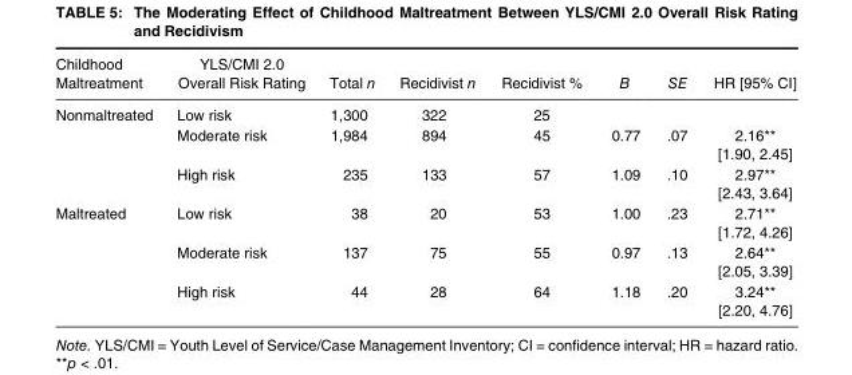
<table><thead><tr><td>Childhood Maltreatment</td><td>YLS/CMI 2.0 Overall Risk Rating</td><td>Total n</td><td>Recidivist n</td><td>Recidivist %</td><td>B</td><td>SE</td><td>HR [95% CI]</td></tr></thead><tbody><tr><td rowspan="3">Nonmaltreated</td><td>Low risk</td><td>1,300</td><td>322</td><td>25</td><td></td><td></td><td></td></tr><tr><td>Moderate risk</td><td>1,984</td><td>894</td><td>45</td><td>0.77</td><td>.07</td><td>2.16** [1.90, 2.45]</td></tr><tr><td>High risk</td><td>235</td><td>133</td><td>57</td><td>1.09</td><td>.10</td><td>2.97** [2.43, 3.64]</td></tr><tr><td rowspan="3">Maltreated</td><td>Low risk</td><td>38</td><td>20</td><td>53</td><td>1.00</td><td>.23</td><td>2.71** [1.72, 4.26]</td></tr><tr><td>Moderate risk</td><td>137</td><td>75</td><td>55</td><td>0.97</td><td>.13</td><td>2.64** [2.05, 3.39]</td></tr><tr><td>High risk</td><td>44</td><td>28</td><td>64</td><td>1.18</td><td>.20</td><td>3.24** [2.20, 4.76]</td></tr></tbody></table>